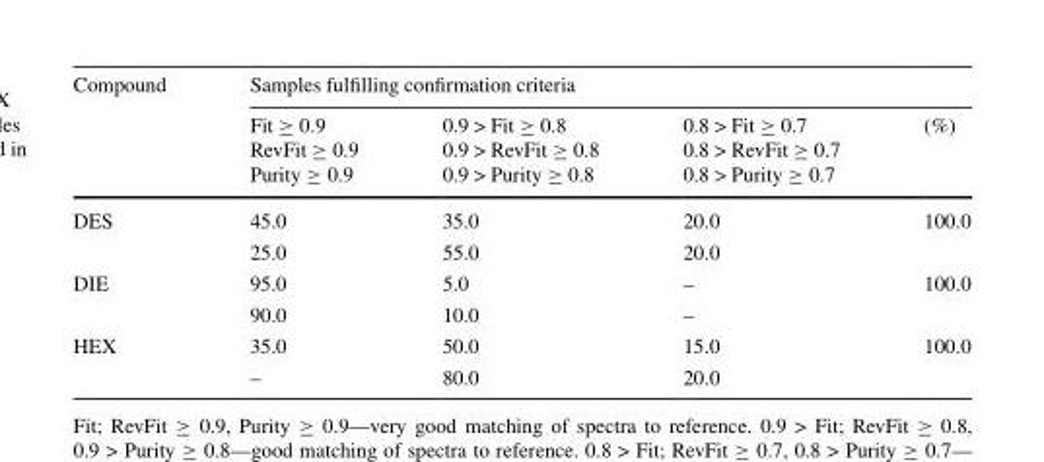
<table><thead><tr><td rowspan="2">Compound</td><td colspan="4">Samples fulfilling confirmation criteria</td></tr><tr><td>Fit ≥ 0.9 RevFit ≥ 0.9 Purity ≥ 0.9</td><td>0.9 &gt; Fit ≥ 0.8 0.9 &gt; RevFit ≥ 0.8 0.9 &gt; Purity ≥ 0.8</td><td>0.8 &gt; Fit ≥ 0.7 0.8 &gt; RevFit ≥ 0.7 0.8 &gt; Purity ≥ 0.7</td><td>(%)</td></tr></thead><tbody><tr><td rowspan="2">DES</td><td>45.0</td><td>35.0</td><td>20.0</td><td rowspan="2">100.0</td></tr><tr><td>25.0</td><td>55.0</td><td>20.0</td></tr><tr><td rowspan="2">DIE</td><td>95.0</td><td>5.0</td><td>–</td><td rowspan="2">100.0</td></tr><tr><td>90.0</td><td>10.0</td><td>–</td></tr><tr><td rowspan="2">HEX</td><td>35.0</td><td>50.0</td><td>15.0</td><td rowspan="2">100.0</td></tr><tr><td>–</td><td>80.0</td><td>20.0</td></tr></tbody></table>